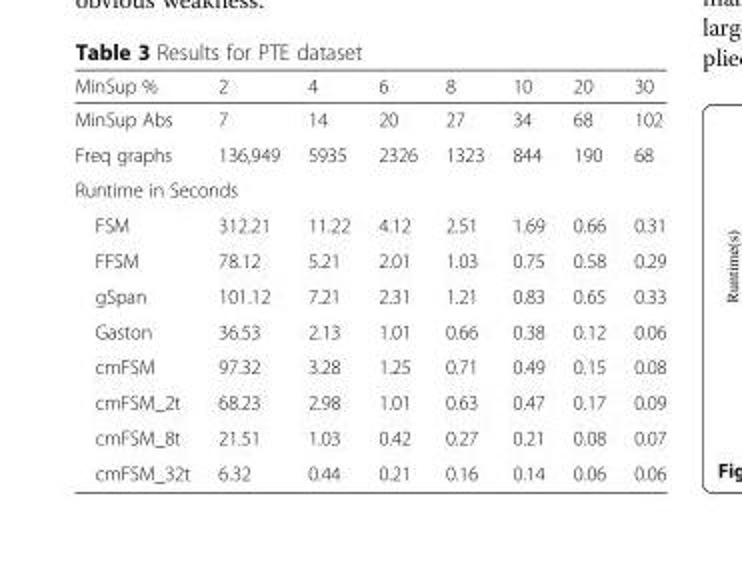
<table><thead><tr><td>MinSup %</td><td>2</td><td>4</td><td>6</td><td>8</td><td>10</td><td>20</td><td>30</td></tr></thead><tbody><tr><td>MinSup Abs</td><td>7</td><td>14</td><td>20</td><td>27</td><td>34</td><td>68</td><td>102</td></tr><tr><td>Freq graphs</td><td>136,949</td><td>5935</td><td>2326</td><td>1323</td><td>844</td><td>190</td><td>68</td></tr><tr><td colspan="8">Runtime in Seconds</td></tr><tr><td>FSM</td><td>312.21</td><td>11.22</td><td>4.12</td><td>2.51</td><td>1.69</td><td>0.66</td><td>0.31</td></tr><tr><td>FFSM</td><td>78.12</td><td>5.21</td><td>2.01</td><td>1.03</td><td>0.75</td><td>0.58</td><td>0.29</td></tr><tr><td>gSpan</td><td>101.12</td><td>7.21</td><td>2.31</td><td>1.21</td><td>0.83</td><td>0.65</td><td>0.33</td></tr><tr><td>Gaston</td><td>36.53</td><td>2.13</td><td>1.01</td><td>0.66</td><td>0.38</td><td>0.12</td><td>0.06</td></tr><tr><td>cmFSM</td><td>97.32</td><td>3.28</td><td>1.25</td><td>0.71</td><td>0.49</td><td>0.15</td><td>0.08</td></tr><tr><td>cmFSM_2t</td><td>68.23</td><td>2.98</td><td>1.01</td><td>0.63</td><td>0.47</td><td>0.17</td><td>0.09</td></tr><tr><td>cmFSM_8t</td><td>21.51</td><td>1.03</td><td>0.42</td><td>0.27</td><td>0.21</td><td>0.08</td><td>0.07</td></tr><tr><td>cmFSM_32t</td><td>6.32</td><td>0.44</td><td>0.21</td><td>0.16</td><td>0.14</td><td>0.06</td><td>0.06</td></tr></tbody></table>